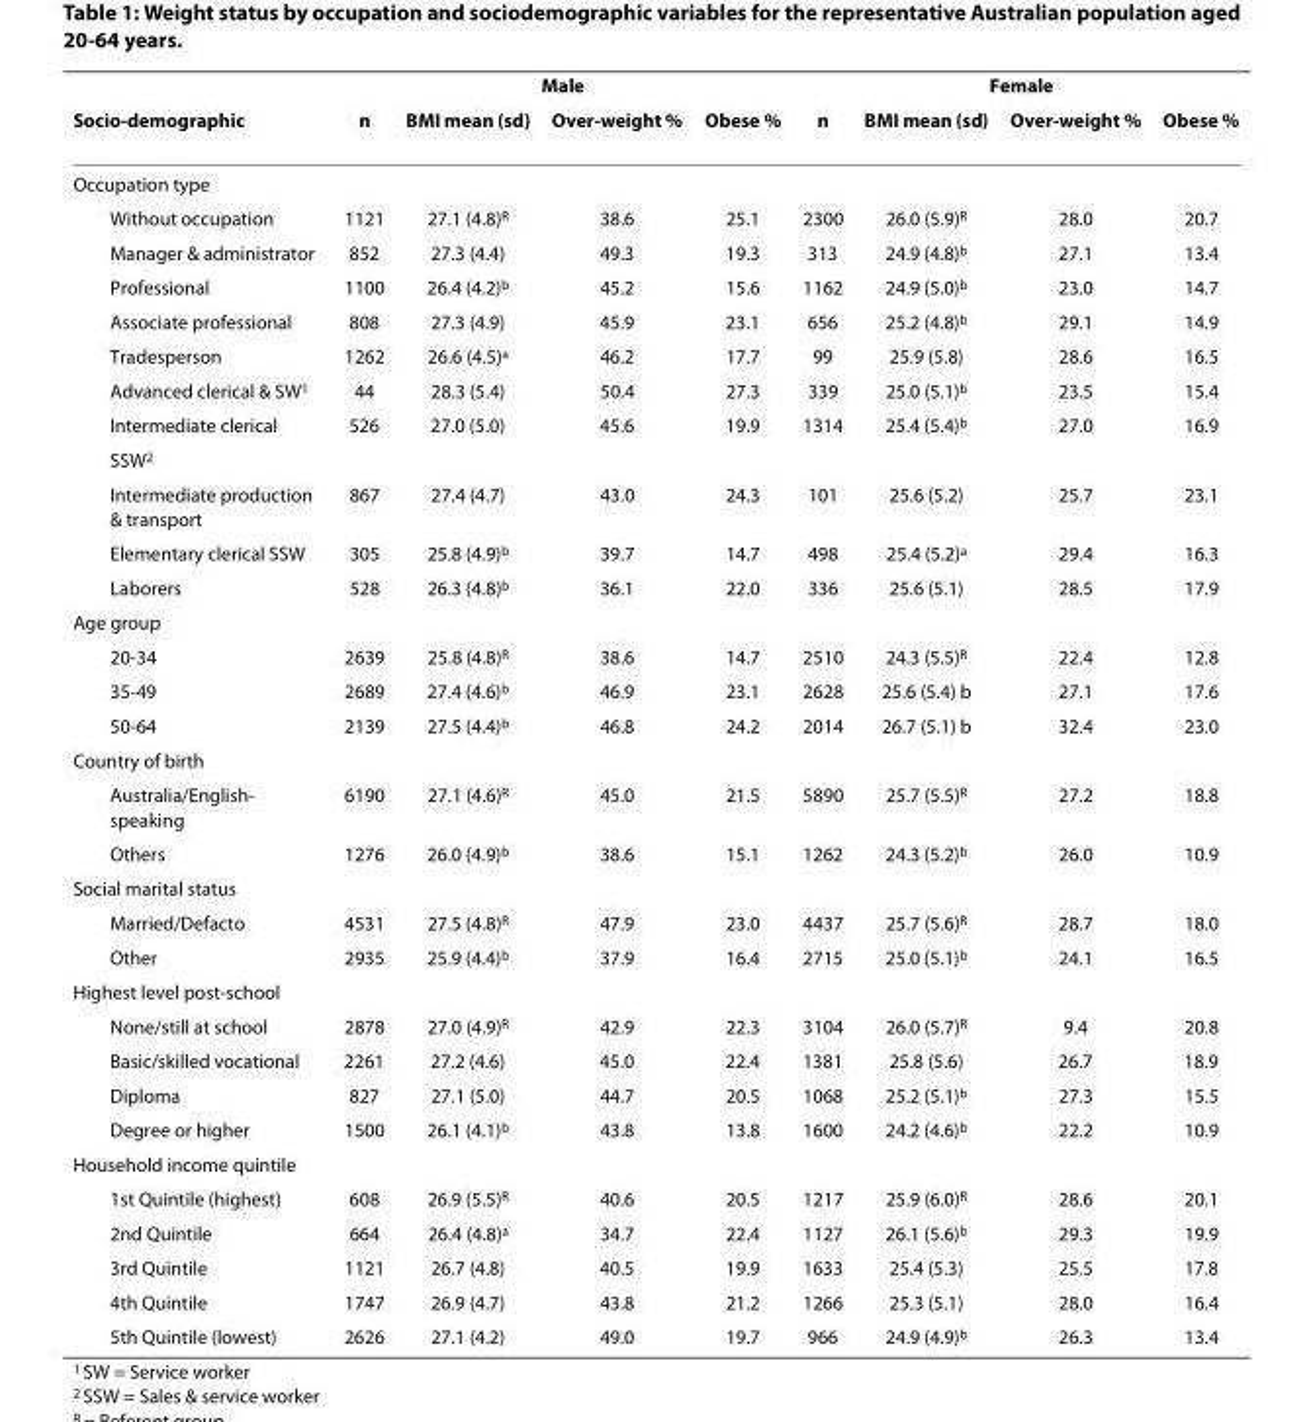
<table><thead><tr><td rowspan="2">Socio-demographic</td><td colspan="4">Male</td><td colspan="4">Female</td></tr><tr><td>n</td><td>BMI mean (sd)</td><td>Over-weight %</td><td>Obese %</td><td>n</td><td>BMI mean (sd)</td><td>Over-weight %</td><td>Obese %</td></tr></thead><tbody><tr><td colspan="9">Occupation type</td></tr><tr><td>Without occupation</td><td>1121</td><td>27.1 (4.8)<sup>R</sup></td><td>38.6</td><td>25.1</td><td>2300</td><td>26.0 (5.9)<sup>R</sup></td><td>28.0</td><td>20.7</td></tr><tr><td>Manager &amp; administrator</td><td>852</td><td>27.3 (4.4)</td><td>49.3</td><td>19.3</td><td>313</td><td>24.9 (4.8)<sup>b</sup></td><td>27.1</td><td>13.4</td></tr><tr><td>Professional</td><td>1100</td><td>26.4 (4.2)<sup>b</sup></td><td>45.2</td><td>15.6</td><td>1162</td><td>24.9 (5.0)<sup>b</sup></td><td>23.0</td><td>14.7</td></tr><tr><td>Associate professional</td><td>808</td><td>27.3 (4.9)</td><td>45.9</td><td>23.1</td><td>656</td><td>25.2 (4.8)<sup>b</sup></td><td>29.1</td><td>14.9</td></tr><tr><td>Tradesperson</td><td>1262</td><td>26.6 (4.5)<sup>a</sup></td><td>46.2</td><td>17.7</td><td>99</td><td>25.9 (5.8)</td><td>28.6</td><td>16.5</td></tr><tr><td>Advanced clerical &amp; SW<sup>1</sup></td><td>44</td><td>28.3 (5.4)</td><td>50.4</td><td>27.3</td><td>339</td><td>25.0 (5.1)<sup>b</sup></td><td>23.5</td><td>15.4</td></tr><tr><td>Intermediate clerical</td><td>526</td><td>27.0 (5.0)</td><td>45.6</td><td>19.9</td><td>1314</td><td>25.4 (5.4)<sup>b</sup></td><td>27.0</td><td>16.9</td></tr><tr><td colspan="9">SSW<sup>2</sup></td></tr><tr><td>Intermediate production &amp; transport</td><td>867</td><td>27.4 (4.7)</td><td>43.0</td><td>24.3</td><td>101</td><td>25.6 (5.2)</td><td>25.7</td><td>23.1</td></tr><tr><td>Elementary clerical SSW</td><td>305</td><td>25.8 (4.9)<sup>b</sup></td><td>39.7</td><td>14.7</td><td>498</td><td>25.4 (5.2)<sup>a</sup></td><td>29.4</td><td>16.3</td></tr><tr><td>Laborers</td><td>528</td><td>26.3 (4.8)<sup>b</sup></td><td>36.1</td><td>22.0</td><td>336</td><td>25.6 (5.1)</td><td>28.5</td><td>17.9</td></tr><tr><td colspan="9">Age group</td></tr><tr><td>20-34</td><td>2639</td><td>25.8 (4.8)<sup>R</sup></td><td>38.6</td><td>14.7</td><td>2510</td><td>24.3 (5.5)<sup>R</sup></td><td>22.4</td><td>12.8</td></tr><tr><td>35-49</td><td>2689</td><td>27.4 (4.6)<sup>b</sup></td><td>46.9</td><td>23.1</td><td>2628</td><td>25.6 (5.4) b</td><td>27.1</td><td>17.6</td></tr><tr><td>50-64</td><td>2139</td><td>27.5 (4.4)<sup>b</sup></td><td>46.8</td><td>24.2</td><td>2014</td><td>26.7 (5.1) b</td><td>32.4</td><td>23.0</td></tr><tr><td colspan="9">Country of birth</td></tr><tr><td>Australia/English- speaking</td><td>6190</td><td>27.1 (4.6)<sup>R</sup></td><td>45.0</td><td>21.5</td><td>5890</td><td>25.7 (5.5)<sup>R</sup></td><td>27.2</td><td>18.8</td></tr><tr><td>Others</td><td>1276</td><td>26.0 (4.9)<sup>b</sup></td><td>38.6</td><td>15.1</td><td>1262</td><td>24.3 (5.2)<sup>b</sup></td><td>26.0</td><td>10.9</td></tr><tr><td colspan="9">Social marital status</td></tr><tr><td>Married/Defacto</td><td>4531</td><td>27.5 (4.8)<sup>R</sup></td><td>47.9</td><td>23.0</td><td>4437</td><td>25.7 (5.6)<sup>R</sup></td><td>28.7</td><td>18.0</td></tr><tr><td>Other</td><td>2935</td><td>25.9 (4.4)<sup>b</sup></td><td>37.9</td><td>16.4</td><td>2715</td><td>25.0 (5.1)<sup>b</sup></td><td>24.1</td><td>16.5</td></tr><tr><td colspan="9">Highest level post-school</td></tr><tr><td>None/still at school</td><td>2878</td><td>27.0 (4.9)<sup>R</sup></td><td>42.9</td><td>22.3</td><td>3104</td><td>26.0 (5.7)<sup>R</sup></td><td>9.4</td><td>20.8</td></tr><tr><td>Basic/skilled vocational</td><td>2261</td><td>27.2 (4.6)</td><td>45.0</td><td>22.4</td><td>1381</td><td>25.8 (5.6)</td><td>26.7</td><td>18.9</td></tr><tr><td>Diploma</td><td>827</td><td>27.1 (5.0)</td><td>44.7</td><td>20.5</td><td>1068</td><td>25.2 (5.1)<sup>b</sup></td><td>27.3</td><td>15.5</td></tr><tr><td>Degree or higher</td><td>1500</td><td>26.1 (4.1)<sup>b</sup></td><td>43.8</td><td>13.8</td><td>1600</td><td>24.2 (4.6)<sup>b</sup></td><td>22.2</td><td>10.9</td></tr><tr><td colspan="9">Household income quintile</td></tr><tr><td>1st Quintile (highest)</td><td>608</td><td>26.9 (5.5)<sup>R</sup></td><td>40.6</td><td>20.5</td><td>1217</td><td>25.9 (6.0)<sup>R</sup></td><td>28.6</td><td>20.1</td></tr><tr><td>2nd Quintile</td><td>664</td><td>26.4 (4.8)<sup>a</sup></td><td>34.7</td><td>22.4</td><td>1127</td><td>26.1 (5.6)<sup>b</sup></td><td>29.3</td><td>19.9</td></tr><tr><td>3rd Quintile</td><td>1121</td><td>26.7 (4.8)</td><td>40.5</td><td>19.9</td><td>1633</td><td>25.4 (5.3)</td><td>25.5</td><td>17.8</td></tr><tr><td>4th Quintile</td><td>1747</td><td>26.9 (4.7)</td><td>43.8</td><td>21.2</td><td>1266</td><td>25.3 (5.1)</td><td>28.0</td><td>16.4</td></tr><tr><td>5th Quintile (lowest)</td><td>2626</td><td>27.1 (4.2)</td><td>49.0</td><td>19.7</td><td>966</td><td>24.9 (4.9)<sup>b</sup></td><td>26.3</td><td>13.4</td></tr></tbody></table>